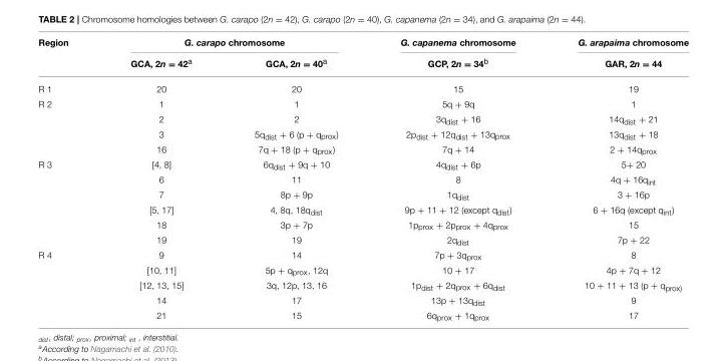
<table><thead><tr><td rowspan="2">Region</td><td colspan="2">G. carapo chromosome</td><td rowspan="2">G. capanema chromosome GCP, 2n = 34<sup>b</sup></td><td rowspan="2">G. arapaima chromosome GAR, 2n = 44</td></tr><tr><td>GCA, 2n = 42<sup>a</sup></td><td>GCA, 2n = 40<sup>a</sup></td></tr></thead><tbody><tr><td>R 1</td><td>20</td><td>20</td><td>15</td><td>19</td></tr><tr><td rowspan="4">R 2</td><td>1</td><td>1</td><td>5q + 9q</td><td>1</td></tr><tr><td>2</td><td>2</td><td>3q<sub>dist</sub> + 16</td><td>14q<sub>dist</sub> + 21</td></tr><tr><td>3</td><td>5q<sub>dist</sub> + 6 (p + q<sub>prox</sub>)</td><td>2p<sub>dist</sub> + 12q<sub>dist</sub> + 13q<sub>prox</sub></td><td>13q<sub>dist</sub> + 18</td></tr><tr><td>16</td><td>7q + 18 (p + q<sub>prox</sub>)</td><td>7q + 14</td><td>2 + 14q<sub>prox</sub></td></tr><tr><td rowspan="6">R 3</td><td>[4, 8]</td><td>6q<sub>dist</sub> + 9q + 10</td><td>4q<sub>dist</sub> + 6p</td><td>5+ 20</td></tr><tr><td>6</td><td>11</td><td>8</td><td>4q + 16q<sub>int</sub></td></tr><tr><td>7</td><td>8p + 9p</td><td>1q<sub>dist</sub></td><td>3 + 16p</td></tr><tr><td>[5, 17]</td><td>4, 8q, 18q<sub>dist</sub></td><td>9p + 11 + 12 (except q<sub>dist</sub>)</td><td>6 + 16q (except q<sub>int</sub>)</td></tr><tr><td>18</td><td>3p + 7p</td><td>1p<sub>prox</sub> + 2p<sub>prox</sub> + 4q<sub>prox</sub></td><td>15</td></tr><tr><td>19</td><td>19</td><td>2q<sub>dist</sub></td><td>7p + 22</td></tr><tr><td rowspan="5">R 4</td><td>9</td><td>14</td><td>7p + 3q<sub>prox</sub></td><td>8</td></tr><tr><td>[10, 11]</td><td>5p + q<sub>prox</sub>, 12q</td><td>10 + 17</td><td>4p + 7q + 12</td></tr><tr><td>[12, 13, 15]</td><td>3q, 12p, 13, 16</td><td>1p<sub>dist</sub> + 2q<sub>prox</sub> + 6q<sub>dist</sub></td><td>10 + 11 + 13 (p + q<sub>prox</sub>)</td></tr><tr><td>14</td><td>17</td><td>13p + 13q<sub>dist</sub></td><td>9</td></tr><tr><td>21</td><td>15</td><td>6q<sub>prox</sub> + 1q<sub>prox</sub></td><td>17</td></tr></tbody></table>